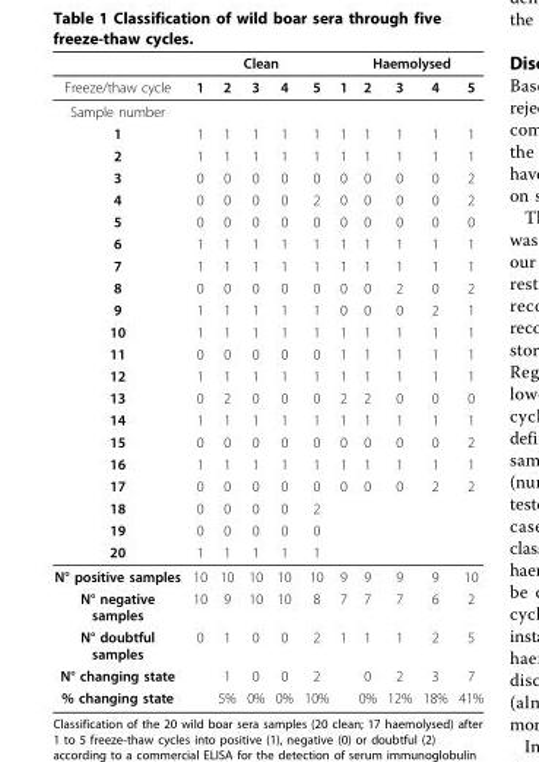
<table><thead><tr><td rowspan="2">Freeze/thaw cycle</td><td colspan="5">Clean</td><td colspan="5">Haemolysed</td></tr><tr><td>1</td><td>2</td><td>3</td><td>4</td><td>5</td><td>1</td><td>2</td><td>3</td><td>4</td><td>5</td></tr></thead><tbody><tr><td colspan="11">Sample number</td></tr><tr><td>1</td><td>1</td><td>1</td><td>1</td><td>1</td><td>1</td><td>1</td><td>1</td><td>1</td><td>1</td><td>1</td></tr><tr><td>2</td><td>1</td><td>1</td><td>1</td><td>1</td><td>1</td><td>1</td><td>1</td><td>1</td><td>1</td><td>1</td></tr><tr><td>3</td><td>0</td><td>0</td><td>0</td><td>0</td><td>0</td><td>0</td><td>0</td><td>0</td><td>0</td><td>2</td></tr><tr><td>4</td><td>0</td><td>0</td><td>0</td><td>0</td><td>2</td><td>0</td><td>0</td><td>0</td><td>0</td><td>2</td></tr><tr><td>5</td><td>0</td><td>0</td><td>0</td><td>0</td><td>0</td><td>0</td><td>0</td><td>0</td><td>0</td><td>0</td></tr><tr><td>6</td><td>1</td><td>1</td><td>1</td><td>1</td><td>1</td><td>1</td><td>1</td><td>1</td><td>1</td><td>1</td></tr><tr><td>7</td><td>1</td><td>1</td><td>1</td><td>1</td><td>1</td><td>1</td><td>1</td><td>1</td><td>1</td><td>1</td></tr><tr><td>8</td><td>0</td><td>0</td><td>0</td><td>0</td><td>0</td><td>0</td><td>0</td><td>2</td><td>0</td><td>2</td></tr><tr><td>9</td><td>1</td><td>1</td><td>1</td><td>1</td><td>1</td><td>0</td><td>0</td><td>0</td><td>2</td><td>1</td></tr><tr><td>10</td><td>1</td><td>1</td><td>1</td><td>1</td><td>1</td><td>1</td><td>1</td><td>1</td><td>1</td><td>1</td></tr><tr><td>11</td><td>0</td><td>0</td><td>0</td><td>0</td><td>0</td><td>1</td><td>1</td><td>1</td><td>1</td><td>1</td></tr><tr><td>12</td><td>1</td><td>1</td><td>1</td><td>1</td><td>1</td><td>1</td><td>1</td><td>1</td><td>1</td><td>1</td></tr><tr><td>13</td><td>0</td><td>2</td><td>0</td><td>0</td><td>0</td><td>2</td><td>2</td><td>0</td><td>0</td><td>0</td></tr><tr><td>14</td><td>1</td><td>1</td><td>1</td><td>1</td><td>1</td><td>1</td><td>1</td><td>1</td><td>1</td><td>1</td></tr><tr><td>15</td><td>0</td><td>0</td><td>0</td><td>0</td><td>0</td><td>0</td><td>0</td><td>0</td><td>0</td><td>2</td></tr><tr><td>16</td><td>1</td><td>1</td><td>1</td><td>1</td><td>1</td><td>1</td><td>1</td><td>1</td><td>1</td><td>1</td></tr><tr><td>17</td><td>0</td><td>0</td><td>0</td><td>0</td><td>0</td><td>0</td><td>0</td><td>0</td><td>2</td><td>2</td></tr><tr><td>18</td><td>0</td><td>0</td><td>0</td><td>0</td><td>2</td><td></td><td></td><td></td><td></td><td></td></tr><tr><td>19</td><td>0</td><td>0</td><td>0</td><td>0</td><td>0</td><td></td><td></td><td></td><td></td><td></td></tr><tr><td>20</td><td>1</td><td>1</td><td>1</td><td>1</td><td>1</td><td></td><td></td><td></td><td></td><td></td></tr><tr><td>N° positive samples</td><td>10</td><td>10</td><td>10</td><td>10</td><td>10</td><td>9</td><td>9</td><td>9</td><td>9</td><td>10</td></tr><tr><td>N° negative samples</td><td>10</td><td>9</td><td>10</td><td>10</td><td>8</td><td>7</td><td>7</td><td>7</td><td>6</td><td>2</td></tr><tr><td>N° doubtful samples</td><td>0</td><td>1</td><td>0</td><td>0</td><td>2</td><td>1</td><td>1</td><td>1</td><td>2</td><td>5</td></tr><tr><td>N° changing state</td><td></td><td>1</td><td>0</td><td>0</td><td>2</td><td></td><td>0</td><td>2</td><td>3</td><td>7</td></tr><tr><td>% changing state</td><td></td><td>5%</td><td>0%</td><td>0%</td><td>10%</td><td></td><td>0%</td><td>12%</td><td>18%</td><td>41%</td></tr></tbody></table>